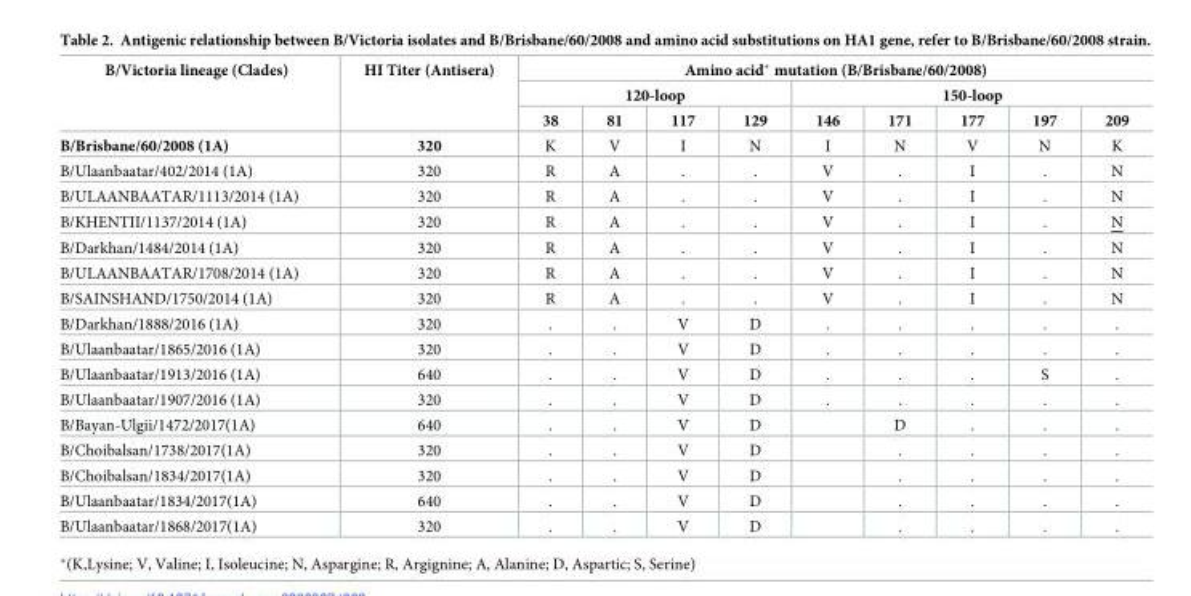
<table><thead><tr><td rowspan="3">B/Victoria lineage (Clades)</td><td rowspan="3">HI Titer (Antisera)</td><td colspan="9">Amino acid* mutation (B/Brisbane/60/2008)</td></tr><tr><td colspan="4">120-loop</td><td colspan="5">150-loop</td></tr><tr><td>38</td><td>81</td><td>117</td><td>129</td><td>146</td><td>171</td><td>177</td><td>197</td><td>209</td></tr></thead><tbody><tr><td>B/Brisbane/60/2008 (1A)</td><td>320</td><td>K</td><td>V</td><td>I</td><td>N</td><td>I</td><td>N</td><td>V</td><td>N</td><td>K</td></tr><tr><td>B/Ulaanbaatar/402/2014 (1A)</td><td>320</td><td>R</td><td>A</td><td>.</td><td>.</td><td>V</td><td>.</td><td>I</td><td>.</td><td>N</td></tr><tr><td>B/ULAANBAATAR/1113/2014 (1A)</td><td>320</td><td>R</td><td>A</td><td>.</td><td>.</td><td>V</td><td>.</td><td>I</td><td>.</td><td>N</td></tr><tr><td>B/KHENTII/1137/2014 (1A)</td><td>320</td><td>R</td><td>A</td><td>.</td><td>.</td><td>V</td><td>.</td><td>I</td><td>.</td><td>N</td></tr><tr><td>B/Darkhan/1484/2014 (1A)</td><td>320</td><td>R</td><td>A</td><td>.</td><td>.</td><td>V</td><td>.</td><td>I</td><td>.</td><td>N</td></tr><tr><td>B/ULAANBAATAR/1708/2014 (1A)</td><td>320</td><td>R</td><td>A</td><td>.</td><td>.</td><td>V</td><td>.</td><td>I</td><td>.</td><td>N</td></tr><tr><td>B/SAINSHAND/1750/2014 (1A)</td><td>320</td><td>R</td><td>A</td><td>.</td><td>.</td><td>V</td><td>.</td><td>I</td><td>.</td><td>N</td></tr><tr><td>B/Darkhan/1888/2016 (1A)</td><td>320</td><td>.</td><td>.</td><td>V</td><td>D</td><td>.</td><td>.</td><td>.</td><td>.</td><td>.</td></tr><tr><td>B/Ulaanbaatar/1865/2016 (1A)</td><td>320</td><td>.</td><td>.</td><td>V</td><td>D</td><td>.</td><td>.</td><td>.</td><td>.</td><td>.</td></tr><tr><td>B/Ulaanbaatar/1913/2016 (1A)</td><td>640</td><td>.</td><td>.</td><td>V</td><td>D</td><td>.</td><td>.</td><td>.</td><td>S</td><td>.</td></tr><tr><td>B/Ulaanbaatar/1907/2016 (1A)</td><td>320</td><td>.</td><td>.</td><td>V</td><td>D</td><td>.</td><td>.</td><td>.</td><td>.</td><td>.</td></tr><tr><td>B/Bayan-Ulgii/1472/2017(1A)</td><td>640</td><td>.</td><td>.</td><td>V</td><td>D</td><td></td><td>D</td><td>.</td><td>.</td><td>.</td></tr><tr><td>B/Choibalsan/1738/2017(1A)</td><td>320</td><td>.</td><td>.</td><td>V</td><td>D</td><td></td><td>.</td><td>.</td><td>.</td><td>.</td></tr><tr><td>B/Choibalsan/1834/2017(1A)</td><td>320</td><td>.</td><td>.</td><td>V</td><td>D</td><td></td><td>.</td><td>.</td><td>.</td><td>.</td></tr><tr><td>B/Ulaanbaatar/1834/2017(1A)</td><td>640</td><td>.</td><td>.</td><td>V</td><td>D</td><td></td><td>.</td><td>.</td><td>.</td><td>.</td></tr><tr><td>B/Ulaanbaatar/1868/2017(1A)</td><td>320</td><td>.</td><td>.</td><td>V</td><td>D</td><td></td><td>.</td><td>.</td><td>.</td><td>.</td></tr></tbody></table>